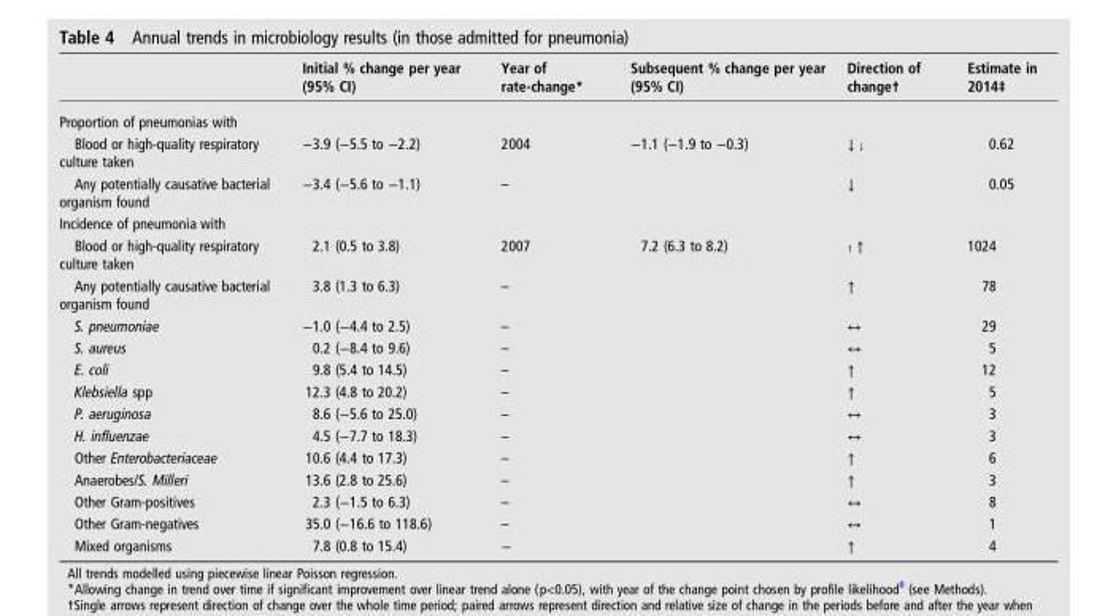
<table><thead><tr><td></td><td>Initial % change per year (95% CI)</td><td>Year of rate-change*</td><td>Subsequent % change per year (95% CI)</td><td>Direction of change†</td><td>Estimate in 2014‡</td></tr></thead><tbody><tr><td colspan="6">Proportion of pneumonias with</td></tr><tr><td>Blood or high-quality respiratory culture taken</td><td>−3.9 (−5.5 to −2.2)</td><td>2004</td><td>−1.1 (−1.9 to −0.3)</td><td>↓ ↓</td><td>0.62</td></tr><tr><td>Any potentially causative bacterial organism found</td><td>−3.4 (−5.6 to −1.1)</td><td>–</td><td></td><td>↓</td><td>0.05</td></tr><tr><td colspan="6">Incidence of pneumonia with</td></tr><tr><td>Blood or high-quality respiratory culture taken</td><td>2.1 (0.5 to 3.8)</td><td>2007</td><td>7.2 (6.3 to 8.2)</td><td>↑ ↑</td><td>1024</td></tr><tr><td>Any potentially causative bacterial organism found</td><td>3.8 (1.3 to 6.3)</td><td>–</td><td></td><td>↑</td><td>78</td></tr><tr><td>S. pneumoniae</td><td>−1.0 (−4.4 to 2.5)</td><td>–</td><td></td><td>↔</td><td>29</td></tr><tr><td>S. aureus</td><td>0.2 (−8.4 to 9.6)</td><td>–</td><td></td><td>↔</td><td>5</td></tr><tr><td>E. coli</td><td>9.8 (5.4 to 14.5)</td><td>–</td><td></td><td>↑</td><td>12</td></tr><tr><td>Klebsiella spp</td><td>12.3 (4.8 to 20.2)</td><td>–</td><td></td><td>↑</td><td>5</td></tr><tr><td>P. aeruginosa</td><td>8.6 (−5.6 to 25.0)</td><td>–</td><td></td><td>↔</td><td>3</td></tr><tr><td>H. influenzae</td><td>4.5 (−7.7 to 18.3)</td><td>–</td><td></td><td>↔</td><td>3</td></tr><tr><td>Other Enterobacteriaceae</td><td>10.6 (4.4 to 17.3)</td><td>–</td><td></td><td>↑</td><td>6</td></tr><tr><td>Anaerobes/S. Milleri</td><td>13.6 (2.8 to 25.6)</td><td>–</td><td></td><td>↑</td><td>3</td></tr><tr><td>Other Gram-positives</td><td>2.3 (−1.5 to 6.3)</td><td>–</td><td></td><td>↔</td><td>8</td></tr><tr><td>Other Gram-negatives</td><td>35.0 (−16.6 to 118.6)</td><td>–</td><td></td><td>↔</td><td>1</td></tr><tr><td>Mixed organisms</td><td>7.8 (0.8 to 15.4)</td><td>−</td><td></td><td>↑</td><td>4</td></tr></tbody></table>